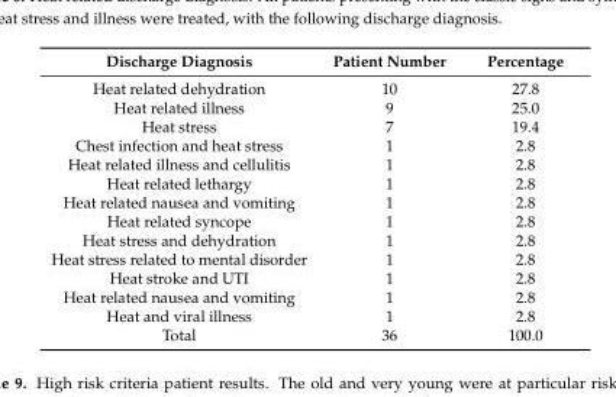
<table><thead><tr><td>Discharge Diagnosis</td><td>Patient Number</td><td>Percentage</td></tr></thead><tbody><tr><td>Heat related dehydration</td><td>10</td><td>27.8</td></tr><tr><td>Heat related illness</td><td>9</td><td>25.0</td></tr><tr><td>Heat stress</td><td>7</td><td>19.4</td></tr><tr><td>Chest infection and heat stress</td><td>1</td><td>2.8</td></tr><tr><td>Heat related illness and cellulitis</td><td>1</td><td>2.8</td></tr><tr><td>Heat related lethargy</td><td>1</td><td>2.8</td></tr><tr><td>Heat related nausea and vomiting</td><td>1</td><td>2.8</td></tr><tr><td>Heat related syncope</td><td>1</td><td>2.8</td></tr><tr><td>Heat stress and dehydration</td><td>1</td><td>2.8</td></tr><tr><td>Heat stress related to mental disorder</td><td>1</td><td>2.8</td></tr><tr><td>Heat stroke and UTI</td><td>1</td><td>2.8</td></tr><tr><td>Heat related nausea and vomiting</td><td>1</td><td>2.8</td></tr><tr><td>Heat and viral illness</td><td>1</td><td>2.8</td></tr><tr><td>Total</td><td>36</td><td>100.0</td></tr></tbody></table>